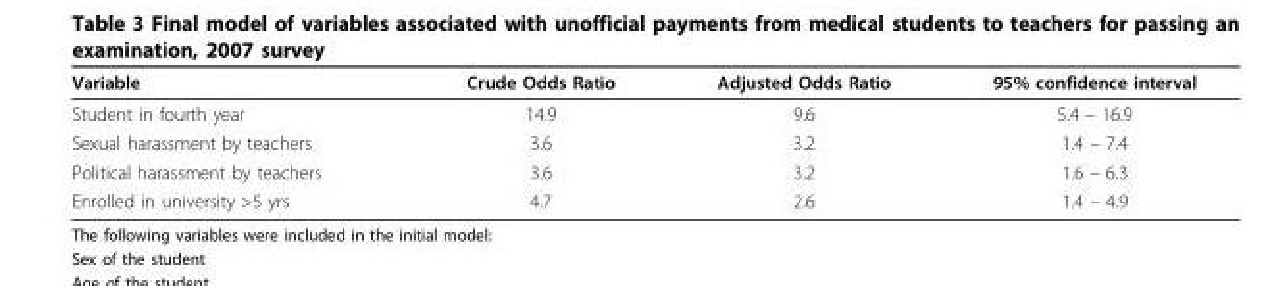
<table><thead><tr><td>Variable</td><td>Crude Odds Ratio</td><td>Adjusted Odds Ratio</td><td>95% confidence interval</td></tr></thead><tbody><tr><td>Student in fourth year</td><td>14.9</td><td>9.6</td><td>5.4 – 16.9</td></tr><tr><td>Sexual harassment by teachers</td><td>3.6</td><td>3.2</td><td>1.4 – 7.4</td></tr><tr><td>Political harassment by teachers</td><td>3.6</td><td>3.2</td><td>1.6 – 6.3</td></tr><tr><td>Enrolled in university &gt;5 yrs</td><td>4.7</td><td>2.6</td><td>1.4 – 4.9</td></tr></tbody></table>